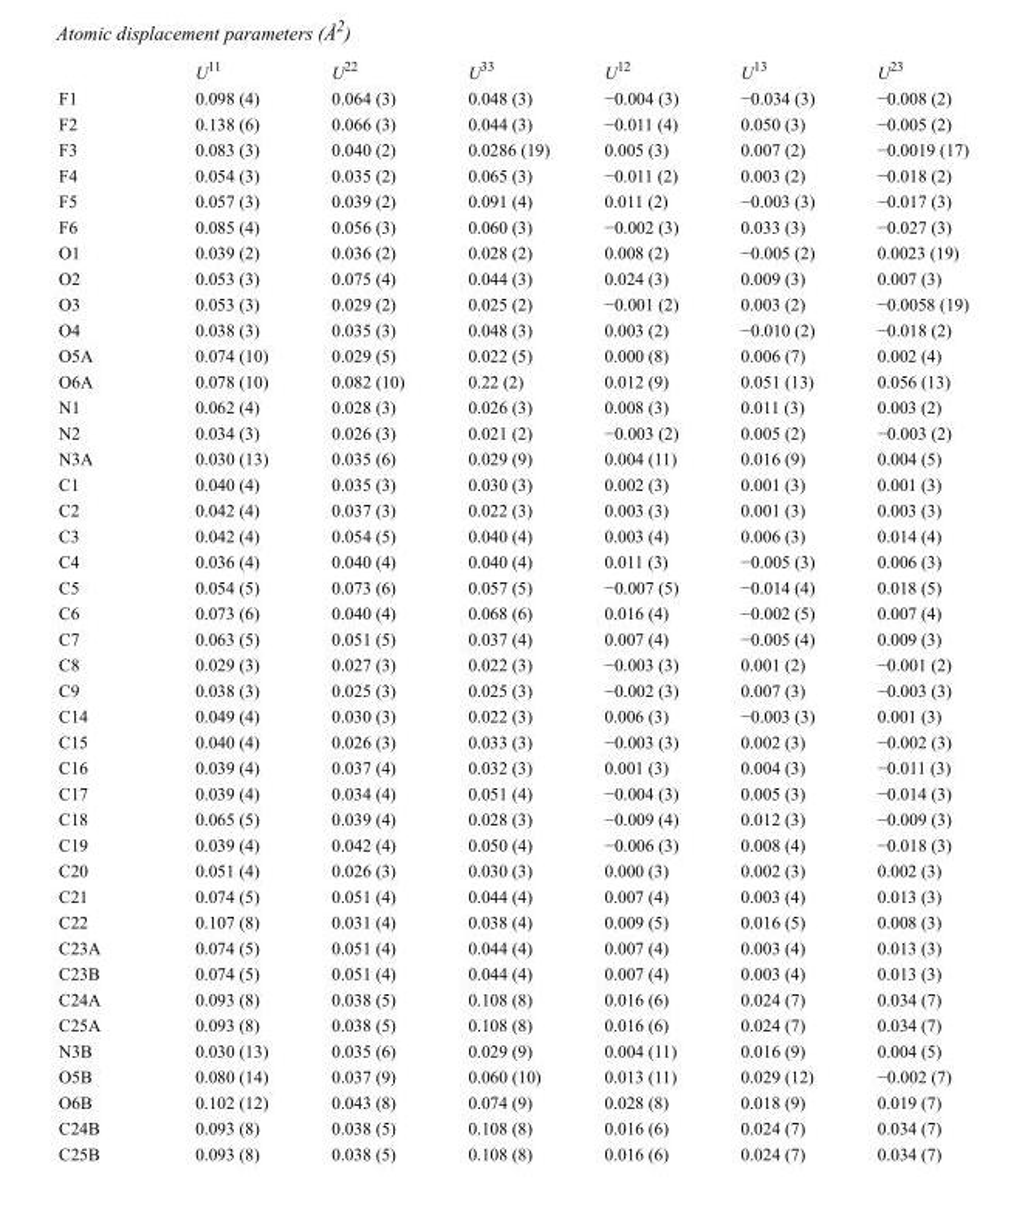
<table><thead><tr><td></td><td>U<sup>11</sup></td><td>U<sup>22</sup></td><td>U<sup>33</sup></td><td>U<sup>12</sup></td><td>U<sup>13</sup></td><td>U<sup>23</sup></td></tr></thead><tbody><tr><td>F1</td><td>0.098 (4)</td><td>0.064 (3)</td><td>0.048 (3)</td><td>−0.004 (3)</td><td>−0.034 (3)</td><td>−0.008 (2)</td></tr><tr><td>F2</td><td>0.138 (6)</td><td>0.066 (3)</td><td>0.044 (3)</td><td>−0.011 (4)</td><td>0.050 (3)</td><td>−0.005 (2)</td></tr><tr><td>F3</td><td>0.083 (3)</td><td>0.040 (2)</td><td>0.0286 (19)</td><td>0.005 (3)</td><td>0.007 (2)</td><td>−0.0019 (17)</td></tr><tr><td>F4</td><td>0.054 (3)</td><td>0.035 (2)</td><td>0.065 (3)</td><td>−0.011 (2)</td><td>0.003 (2)</td><td>−0.018 (2)</td></tr><tr><td>F5</td><td>0.057 (3)</td><td>0.039 (2)</td><td>0.091 (4)</td><td>0.011 (2)</td><td>−0.003 (3)</td><td>−0.017 (3)</td></tr><tr><td>F6</td><td>0.085 (4)</td><td>0.056 (3)</td><td>0.060 (3)</td><td>−0.002 (3)</td><td>0.033 (3)</td><td>−0.027 (3)</td></tr><tr><td>O1</td><td>0.039 (2)</td><td>0.036 (2)</td><td>0.028 (2)</td><td>0.008 (2)</td><td>−0.005 (2)</td><td>0.0023 (19)</td></tr><tr><td>O2</td><td>0.053 (3)</td><td>0.075 (4)</td><td>0.044 (3)</td><td>0.024 (3)</td><td>0.009 (3)</td><td>0.007 (3)</td></tr><tr><td>O3</td><td>0.053 (3)</td><td>0.029 (2)</td><td>0.025 (2)</td><td>−0.001 (2)</td><td>0.003 (2)</td><td>−0.0058 (19)</td></tr><tr><td>O4</td><td>0.038 (3)</td><td>0.035 (3)</td><td>0.048 (3)</td><td>0.003 (2)</td><td>−0.010 (2)</td><td>−0.018 (2)</td></tr><tr><td>O5A</td><td>0.074 (10)</td><td>0.029 (5)</td><td>0.022 (5)</td><td>0.000 (8)</td><td>0.006 (7)</td><td>0.002 (4)</td></tr><tr><td>O6A</td><td>0.078 (10)</td><td>0.082 (10)</td><td>0.22 (2)</td><td>0.012 (9)</td><td>0.051 (13)</td><td>0.056 (13)</td></tr><tr><td>N1</td><td>0.062 (4)</td><td>0.028 (3)</td><td>0.026 (3)</td><td>0.008 (3)</td><td>0.011 (3)</td><td>0.003 (2)</td></tr><tr><td>N2</td><td>0.034 (3)</td><td>0.026 (3)</td><td>0.021 (2)</td><td>−0.003 (2)</td><td>0.005 (2)</td><td>−0.003 (2)</td></tr><tr><td>N3A</td><td>0.030 (13)</td><td>0.035 (6)</td><td>0.029 (9)</td><td>0.004 (11)</td><td>0.016 (9)</td><td>0.004 (5)</td></tr><tr><td>C1</td><td>0.040 (4)</td><td>0.035 (3)</td><td>0.030 (3)</td><td>0.002 (3)</td><td>0.001 (3)</td><td>0.001 (3)</td></tr><tr><td>C2</td><td>0.042 (4)</td><td>0.037 (3)</td><td>0.022 (3)</td><td>0.003 (3)</td><td>0.001 (3)</td><td>0.003 (3)</td></tr><tr><td>C3</td><td>0.042 (4)</td><td>0.054 (5)</td><td>0.040 (4)</td><td>0.003 (4)</td><td>0.006 (3)</td><td>0.014 (4)</td></tr><tr><td>C4</td><td>0.036 (4)</td><td>0.040 (4)</td><td>0.040 (4)</td><td>0.011 (3)</td><td>−0.005 (3)</td><td>0.006 (3)</td></tr><tr><td>C5</td><td>0.054 (5)</td><td>0.073 (6)</td><td>0.057 (5)</td><td>−0.007 (5)</td><td>−0.014 (4)</td><td>0.018 (5)</td></tr><tr><td>C6</td><td>0.073 (6)</td><td>0.040 (4)</td><td>0.068 (6)</td><td>0.016 (4)</td><td>−0.002 (5)</td><td>0.007 (4)</td></tr><tr><td>C7</td><td>0.063 (5)</td><td>0.051 (5)</td><td>0.037 (4)</td><td>0.007 (4)</td><td>−0.005 (4)</td><td>0.009 (3)</td></tr><tr><td>C8</td><td>0.029 (3)</td><td>0.027 (3)</td><td>0.022 (3)</td><td>−0.003 (3)</td><td>0.001 (2)</td><td>−0.001 (2)</td></tr><tr><td>C9</td><td>0.038 (3)</td><td>0.025 (3)</td><td>0.025 (3)</td><td>−0.002 (3)</td><td>0.007 (3)</td><td>−0.003 (3)</td></tr><tr><td>C14</td><td>0.049 (4)</td><td>0.030 (3)</td><td>0.022 (3)</td><td>0.006 (3)</td><td>−0.003 (3)</td><td>0.001 (3)</td></tr><tr><td>C15</td><td>0.040 (4)</td><td>0.026 (3)</td><td>0.033 (3)</td><td>−0.003 (3)</td><td>0.002 (3)</td><td>−0.002 (3)</td></tr><tr><td>C16</td><td>0.039 (4)</td><td>0.037 (4)</td><td>0.032 (3)</td><td>0.001 (3)</td><td>0.004 (3)</td><td>−0.011 (3)</td></tr><tr><td>C17</td><td>0.039 (4)</td><td>0.034 (4)</td><td>0.051 (4)</td><td>−0.004 (3)</td><td>0.005 (3)</td><td>−0.014 (3)</td></tr><tr><td>C18</td><td>0.065 (5)</td><td>0.039 (4)</td><td>0.028 (3)</td><td>−0.009 (4)</td><td>0.012 (3)</td><td>−0.009 (3)</td></tr><tr><td>C19</td><td>0.039 (4)</td><td>0.042 (4)</td><td>0.050 (4)</td><td>−0.006 (3)</td><td>0.008 (4)</td><td>−0.018 (3)</td></tr><tr><td>C20</td><td>0.051 (4)</td><td>0.026 (3)</td><td>0.030 (3)</td><td>0.000 (3)</td><td>0.002 (3)</td><td>0.002 (3)</td></tr><tr><td>C21</td><td>0.074 (5)</td><td>0.051 (4)</td><td>0.044 (4)</td><td>0.007 (4)</td><td>0.003 (4)</td><td>0.013 (3)</td></tr><tr><td>C22</td><td>0.107 (8)</td><td>0.031 (4)</td><td>0.038 (4)</td><td>0.009 (5)</td><td>0.016 (5)</td><td>0.008 (3)</td></tr><tr><td>C23A</td><td>0.074 (5)</td><td>0.051 (4)</td><td>0.044 (4)</td><td>0.007 (4)</td><td>0.003 (4)</td><td>0.013 (3)</td></tr><tr><td>C23B</td><td>0.074 (5)</td><td>0.051 (4)</td><td>0.044 (4)</td><td>0.007 (4)</td><td>0.003 (4)</td><td>0.013 (3)</td></tr><tr><td>C24A</td><td>0.093 (8)</td><td>0.038 (5)</td><td>0.108 (8)</td><td>0.016 (6)</td><td>0.024 (7)</td><td>0.034 (7)</td></tr><tr><td>C25A</td><td>0.093 (8)</td><td>0.038 (5)</td><td>0.108 (8)</td><td>0.016 (6)</td><td>0.024 (7)</td><td>0.034 (7)</td></tr><tr><td>N3B</td><td>0.030 (13)</td><td>0.035 (6)</td><td>0.029 (9)</td><td>0.004 (11)</td><td>0.016 (9)</td><td>0.004 (5)</td></tr><tr><td>O5B</td><td>0.080 (14)</td><td>0.037 (9)</td><td>0.060 (10)</td><td>0.013 (11)</td><td>0.029 (12)</td><td>−0.002 (7)</td></tr><tr><td>O6B</td><td>0.102 (12)</td><td>0.043 (8)</td><td>0.074 (9)</td><td>0.028 (8)</td><td>0.018 (9)</td><td>0.019 (7)</td></tr><tr><td>C24B</td><td>0.093 (8)</td><td>0.038 (5)</td><td>0.108 (8)</td><td>0.016 (6)</td><td>0.024 (7)</td><td>0.034 (7)</td></tr><tr><td>C25B</td><td>0.093 (8)</td><td>0.038 (5)</td><td>0.108 (8)</td><td>0.016 (6)</td><td>0.024 (7)</td><td>0.034 (7)</td></tr></tbody></table>